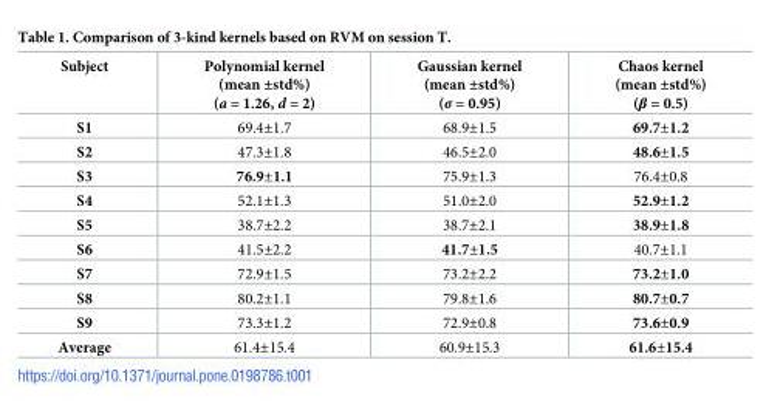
<table><thead><tr><td>Subject</td><td>Polynomial kernel (mean ±std%) (a = 1.26, d = 2)</td><td>Gaussian kernel (mean ±std%) (σ = 0.95)</td><td>Chaos kernel (mean ±std%) (β = 0.5)</td></tr></thead><tbody><tr><td>S1</td><td>69.4±1.7</td><td>68.9±1.5</td><td>69.7±1.2</td></tr><tr><td>S2</td><td>47.3±1.8</td><td>46.5±2.0</td><td>48.6±1.5</td></tr><tr><td>S3</td><td>76.9±1.1</td><td>75.9±1.3</td><td>76.4±0.8</td></tr><tr><td>S4</td><td>52.1±1.3</td><td>51.0±2.0</td><td>52.9±1.2</td></tr><tr><td>S5</td><td>38.7±2.2</td><td>38.7±2.1</td><td>38.9±1.8</td></tr><tr><td>S6</td><td>41.5±2.2</td><td>41.7±1.5</td><td>40.7±1.1</td></tr><tr><td>S7</td><td>72.9±1.5</td><td>73.2±2.2</td><td>73.2±1.0</td></tr><tr><td>S8</td><td>80.2±1.1</td><td>79.8±1.6</td><td>80.7±0.7</td></tr><tr><td>S9</td><td>73.3±1.2</td><td>72.9±0.8</td><td>73.6±0.9</td></tr><tr><td>Average</td><td>61.4±15.4</td><td>60.9±15.3</td><td>61.6±15.4</td></tr></tbody></table>